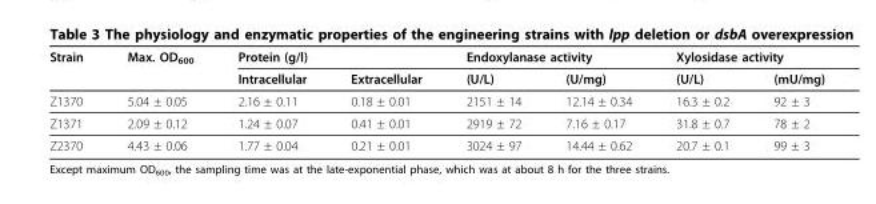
<table><thead><tr><td rowspan="2">Strain</td><td rowspan="2">Max. OD<sub>600</sub></td><td colspan="2">Protein (g/l)</td><td colspan="2">Endoxylanase activity</td><td colspan="2">Xylosidase activity</td></tr><tr><td>Intracellular</td><td>Extracellular</td><td>(U/L)</td><td>(U/mg)</td><td>(U/L)</td><td>(mU/mg)</td></tr></thead><tbody><tr><td>Z1370</td><td>5.04 ± 0.05</td><td>2.16 ± 0.11</td><td>0.18 ± 0.01</td><td>2151 ± 14</td><td>12.14 ± 0.34</td><td>16.3 ± 0.2</td><td>92 ± 3</td></tr><tr><td>Z1371</td><td>2.09 ± 0.12</td><td>1.24 ± 0.07</td><td>0.41 ± 0.01</td><td>2919 ± 72</td><td>7.16 ± 0.17</td><td>31.8 ± 0.7</td><td>78 ± 2</td></tr><tr><td>Z2370</td><td>4.43 ± 0.06</td><td>1.77 ± 0.04</td><td>0.21 ± 0.01</td><td>3024 ± 97</td><td>14.44 ± 0.62</td><td>20.7 ± 0.1</td><td>99 ± 3</td></tr></tbody></table>